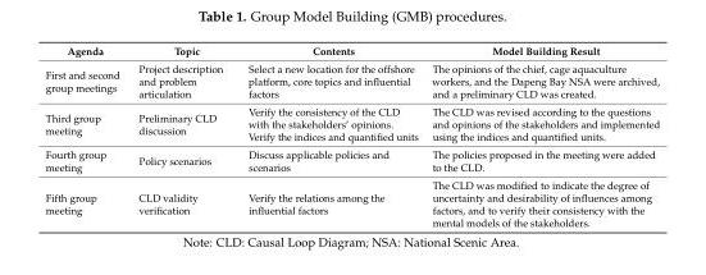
<table><thead><tr><td>Agenda</td><td>Topic</td><td>Contents</td><td>Model Building Result</td></tr></thead><tbody><tr><td>First and second group meetings</td><td>Project description and problem articulation</td><td>Select a new location for the offshore platform, core topics and influential factors</td><td>The opinions of the chief, cage aquaculture workers, and the Dapeng Bay NSA were archived, and a preliminary CLD was created.</td></tr><tr><td>Third group meeting</td><td>Preliminary CLD discussion</td><td>Verify the consistency of the CLD with the stakeholders’ opinions. Verify the indices and quantified units</td><td>The CLD was revised according to the questions and opinions of the stakeholders and implemented using the indices and quantified units.</td></tr><tr><td>Fourth group meeting</td><td>Policy scenarios</td><td>Discuss applicable policies and scenarios</td><td>The policies proposed in the meeting were added to the CLD.</td></tr><tr><td>Fifth group meeting</td><td>CLD validity verification</td><td>Verify the relations among the influential factors</td><td>The CLD was modified to indicate the degree of uncertainty and desirability of influences among factors, and to verify their consistency with the mental models of the stakeholders.</td></tr></tbody></table>